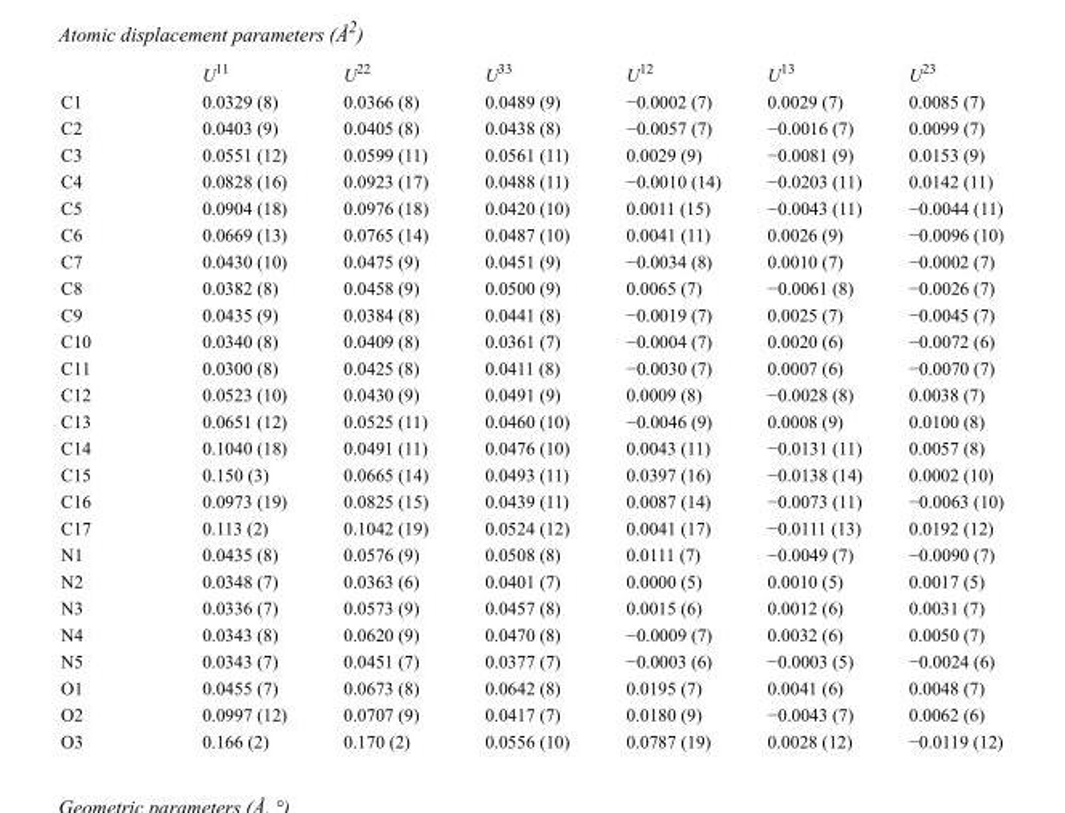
<table><thead><tr><td></td><td>U<sup>11</sup></td><td>U<sup>22</sup></td><td>U<sup>33</sup></td><td>U<sup>12</sup></td><td>U<sup>13</sup></td><td>U<sup>23</sup></td></tr></thead><tbody><tr><td>C1</td><td>0.0329 (8)</td><td>0.0366 (8)</td><td>0.0489 (9)</td><td>−0.0002 (7)</td><td>0.0029 (7)</td><td>0.0085 (7)</td></tr><tr><td>C2</td><td>0.0403 (9)</td><td>0.0405 (8)</td><td>0.0438 (8)</td><td>−0.0057 (7)</td><td>−0.0016 (7)</td><td>0.0099 (7)</td></tr><tr><td>C3</td><td>0.0551 (12)</td><td>0.0599 (11)</td><td>0.0561 (11)</td><td>0.0029 (9)</td><td>−0.0081 (9)</td><td>0.0153 (9)</td></tr><tr><td>C4</td><td>0.0828 (16)</td><td>0.0923 (17)</td><td>0.0488 (11)</td><td>−0.0010 (14)</td><td>−0.0203 (11)</td><td>0.0142 (11)</td></tr><tr><td>C5</td><td>0.0904 (18)</td><td>0.0976 (18)</td><td>0.0420 (10)</td><td>0.0011 (15)</td><td>−0.0043 (11)</td><td>−0.0044 (11)</td></tr><tr><td>C6</td><td>0.0669 (13)</td><td>0.0765 (14)</td><td>0.0487 (10)</td><td>0.0041 (11)</td><td>0.0026 (9)</td><td>−0.0096 (10)</td></tr><tr><td>C7</td><td>0.0430 (10)</td><td>0.0475 (9)</td><td>0.0451 (9)</td><td>−0.0034 (8)</td><td>0.0010 (7)</td><td>−0.0002 (7)</td></tr><tr><td>C8</td><td>0.0382 (8)</td><td>0.0458 (9)</td><td>0.0500 (9)</td><td>0.0065 (7)</td><td>−0.0061 (8)</td><td>−0.0026 (7)</td></tr><tr><td>C9</td><td>0.0435 (9)</td><td>0.0384 (8)</td><td>0.0441 (8)</td><td>−0.0019 (7)</td><td>0.0025 (7)</td><td>−0.0045 (7)</td></tr><tr><td>C10</td><td>0.0340 (8)</td><td>0.0409 (8)</td><td>0.0361 (7)</td><td>−0.0004 (7)</td><td>0.0020 (6)</td><td>−0.0072 (6)</td></tr><tr><td>C11</td><td>0.0300 (8)</td><td>0.0425 (8)</td><td>0.0411 (8)</td><td>−0.0030 (7)</td><td>0.0007 (6)</td><td>−0.0070 (7)</td></tr><tr><td>C12</td><td>0.0523 (10)</td><td>0.0430 (9)</td><td>0.0491 (9)</td><td>0.0009 (8)</td><td>−0.0028 (8)</td><td>0.0038 (7)</td></tr><tr><td>C13</td><td>0.0651 (12)</td><td>0.0525 (11)</td><td>0.0460 (10)</td><td>−0.0046 (9)</td><td>0.0008 (9)</td><td>0.0100 (8)</td></tr><tr><td>C14</td><td>0.1040 (18)</td><td>0.0491 (11)</td><td>0.0476 (10)</td><td>0.0043 (11)</td><td>−0.0131 (11)</td><td>0.0057 (8)</td></tr><tr><td>C15</td><td>0.150 (3)</td><td>0.0665 (14)</td><td>0.0493 (11)</td><td>0.0397 (16)</td><td>−0.0138 (14)</td><td>0.0002 (10)</td></tr><tr><td>C16</td><td>0.0973 (19)</td><td>0.0825 (15)</td><td>0.0439 (11)</td><td>0.0087 (14)</td><td>−0.0073 (11)</td><td>−0.0063 (10)</td></tr><tr><td>C17</td><td>0.113 (2)</td><td>0.1042 (19)</td><td>0.0524 (12)</td><td>0.0041 (17)</td><td>−0.0111 (13)</td><td>0.0192 (12)</td></tr><tr><td>N1</td><td>0.0435 (8)</td><td>0.0576 (9)</td><td>0.0508 (8)</td><td>0.0111 (7)</td><td>−0.0049 (7)</td><td>−0.0090 (7)</td></tr><tr><td>N2</td><td>0.0348 (7)</td><td>0.0363 (6)</td><td>0.0401 (7)</td><td>0.0000 (5)</td><td>0.0010 (5)</td><td>0.0017 (5)</td></tr><tr><td>N3</td><td>0.0336 (7)</td><td>0.0573 (9)</td><td>0.0457 (8)</td><td>0.0015 (6)</td><td>0.0012 (6)</td><td>0.0031 (7)</td></tr><tr><td>N4</td><td>0.0343 (8)</td><td>0.0620 (9)</td><td>0.0470 (8)</td><td>−0.0009 (7)</td><td>0.0032 (6)</td><td>0.0050 (7)</td></tr><tr><td>N5</td><td>0.0343 (7)</td><td>0.0451 (7)</td><td>0.0377 (7)</td><td>−0.0003 (6)</td><td>−0.0003 (5)</td><td>−0.0024 (6)</td></tr><tr><td>O1</td><td>0.0455 (7)</td><td>0.0673 (8)</td><td>0.0642 (8)</td><td>0.0195 (7)</td><td>0.0041 (6)</td><td>0.0048 (7)</td></tr><tr><td>O2</td><td>0.0997 (12)</td><td>0.0707 (9)</td><td>0.0417 (7)</td><td>0.0180 (9)</td><td>−0.0043 (7)</td><td>0.0062 (6)</td></tr><tr><td>O3</td><td>0.166 (2)</td><td>0.170 (2)</td><td>0.0556 (10)</td><td>0.0787 (19)</td><td>0.0028 (12)</td><td>−0.0119 (12)</td></tr></tbody></table>